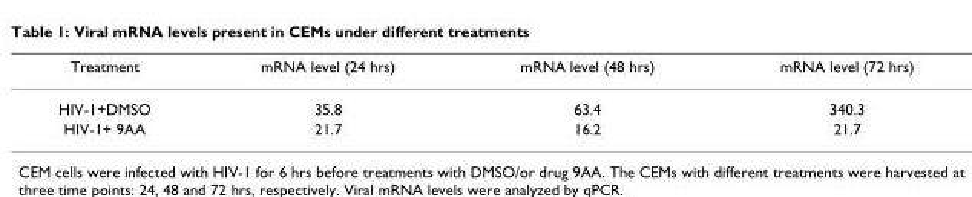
<table><thead><tr><td>Treatment</td><td>mRNA level (24 hrs)</td><td>mRNA level (48 hrs)</td><td>mRNA level (72 hrs)</td></tr></thead><tbody><tr><td>HIV-1+DMSO</td><td>35.8</td><td>63.4</td><td>340.3</td></tr><tr><td>HIV-1+ 9AA</td><td>21.7</td><td>16.2</td><td>21.7</td></tr></tbody></table>